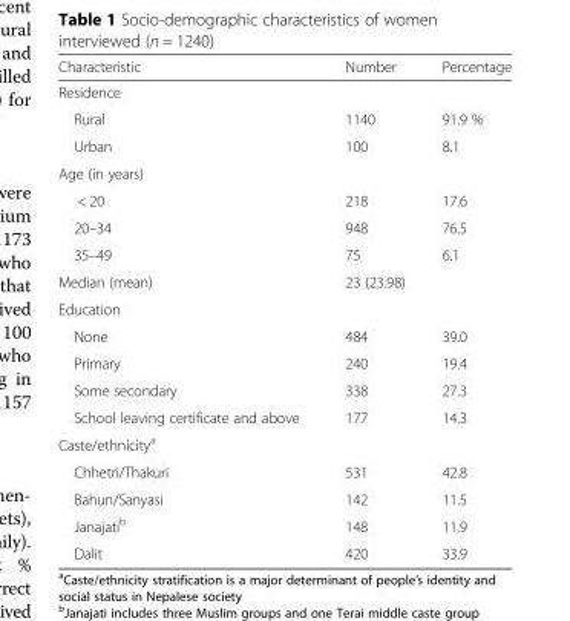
<table><thead><tr><td>Characteristic</td><td>Number</td><td>Percentage</td></tr></thead><tbody><tr><td colspan="3">Residence</td></tr><tr><td>Rural</td><td>1140</td><td>91.9 %</td></tr><tr><td>Urban</td><td>100</td><td>8.1</td></tr><tr><td colspan="3">Age (in years)</td></tr><tr><td>&lt; 20</td><td>218</td><td>17.6</td></tr><tr><td>20–34</td><td>948</td><td>76.5</td></tr><tr><td>35–49</td><td>75</td><td>6.1</td></tr><tr><td>Median (mean)</td><td colspan="2">23 (23.98)</td></tr><tr><td colspan="3">Education</td></tr><tr><td>None</td><td>484</td><td>39.0</td></tr><tr><td>Primary</td><td>240</td><td>19.4</td></tr><tr><td>Some secondary</td><td>338</td><td>27.3</td></tr><tr><td>School leaving certificate and above</td><td>177</td><td>14.3</td></tr><tr><td colspan="3">Caste/ethnicity<sup>a</sup></td></tr><tr><td>Chhetri/Thakuri</td><td>531</td><td>42.8</td></tr><tr><td>Bahun/Sanyasi</td><td>142</td><td>11.5</td></tr><tr><td>Janajati<sup>b</sup></td><td>148</td><td>11.9</td></tr><tr><td>Dalit</td><td>420</td><td>33.9</td></tr></tbody></table>